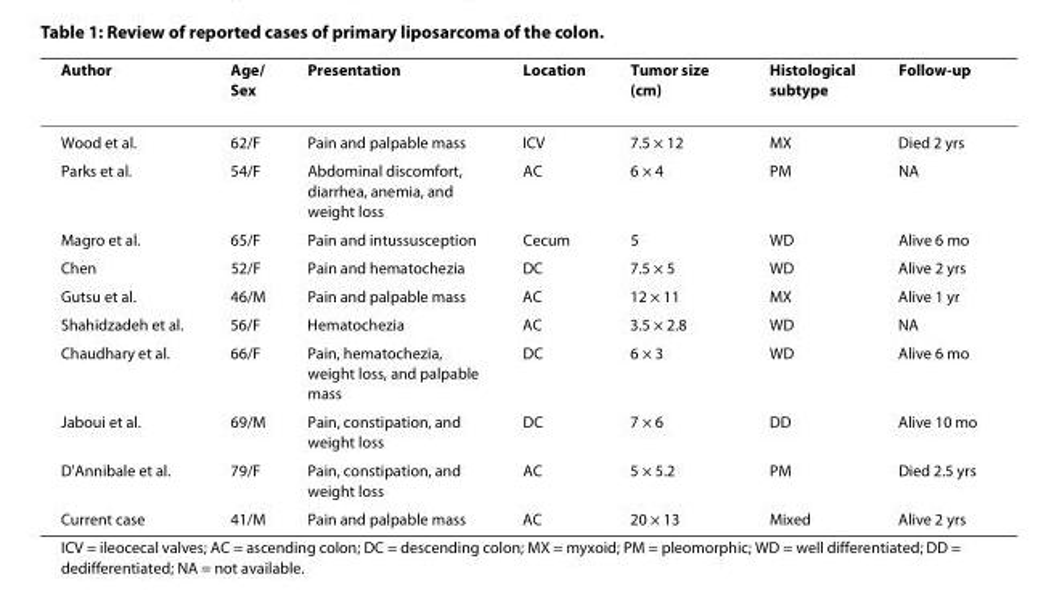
<table><thead><tr><td>Author</td><td>Age/ Sex</td><td>Presentation</td><td>Location</td><td>Tumor size (cm)</td><td>Histological subtype</td><td>Follow-up</td></tr></thead><tbody><tr><td>Wood et al.</td><td>62/F</td><td>Pain and palpable mass</td><td>ICV</td><td>7.5 × 12</td><td>MX</td><td>Died 2 yrs</td></tr><tr><td>Parks et al.</td><td>54/F</td><td>Abdominal discomfort, diarrhea, anemia, and weight loss</td><td>AC</td><td>6 × 4</td><td>PM</td><td>NA</td></tr><tr><td>Magro et al.</td><td>65/F</td><td>Pain and intussusception</td><td>Cecum</td><td>5</td><td>WD</td><td>Alive 6 mo</td></tr><tr><td>Chen</td><td>52/F</td><td>Pain and hematochezia</td><td>DC</td><td>7.5 × 5</td><td>WD</td><td>Alive 2 yrs</td></tr><tr><td>Gutsu et al.</td><td>46/M</td><td>Pain and palpable mass</td><td>AC</td><td>12 × 11</td><td>MX</td><td>Alive 1 yr</td></tr><tr><td>Shahidzadeh et al.</td><td>56/F</td><td>Hematochezia</td><td>AC</td><td>3.5 × 2.8</td><td>WD</td><td>NA</td></tr><tr><td>Chaudhary et al.</td><td>66/F</td><td>Pain, hematochezia, weight loss, and palpable mass</td><td>DC</td><td>6 × 3</td><td>WD</td><td>Alive 6 mo</td></tr><tr><td>Jaboui et al.</td><td>69/M</td><td>Pain, constipation, and weight loss</td><td>DC</td><td>7 × 6</td><td>DD</td><td>Alive 10 mo</td></tr><tr><td>D&#x27;Annibale et al.</td><td>79/F</td><td>Pain, constipation, and weight loss</td><td>AC</td><td>5 × 5.2</td><td>PM</td><td>Died 2.5 yrs</td></tr><tr><td>Current case</td><td>41/M</td><td>Pain and palpable mass</td><td>AC</td><td>20 × 13</td><td>Mixed</td><td>Alive 2 yrs</td></tr></tbody></table>